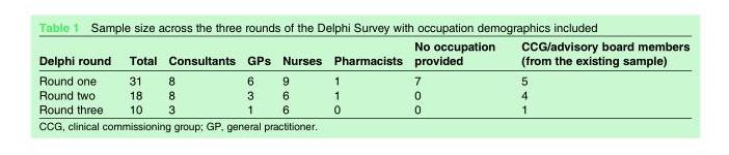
<table><thead><tr><td>Delphi round</td><td>Total</td><td>Consultants</td><td>GPs</td><td>Nurses</td><td>Pharmacists</td><td>No occupation provided</td><td>CCG/advisory board members (from the existing sample)</td></tr></thead><tbody><tr><td>Round one</td><td>31</td><td>8</td><td>6</td><td>9</td><td>1</td><td>7</td><td>5</td></tr><tr><td>Round two</td><td>18</td><td>8</td><td>3</td><td>6</td><td>1</td><td>0</td><td>4</td></tr><tr><td>Round three</td><td>10</td><td>3</td><td>1</td><td>6</td><td>0</td><td>0</td><td>1</td></tr></tbody></table>